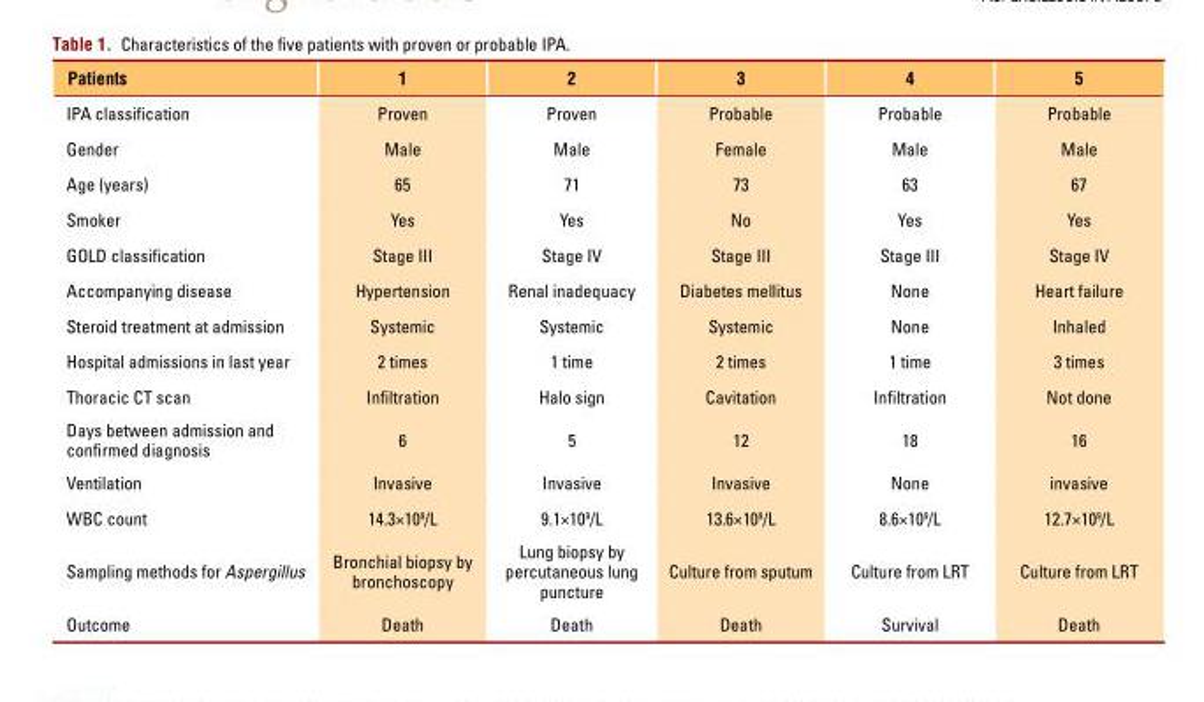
<table><thead><tr><td>Patients</td><td>1</td><td>2</td><td>3</td><td>4</td><td>5</td></tr></thead><tbody><tr><td>IPA classification</td><td>Proven</td><td>Proven</td><td>Probable</td><td>Probable</td><td>Probable</td></tr><tr><td>Gender</td><td>Male</td><td>Male</td><td>Female</td><td>Male</td><td>Male</td></tr><tr><td>Age (years)</td><td>65</td><td>71</td><td>73</td><td>63</td><td>67</td></tr><tr><td>Smoker</td><td>Yes</td><td>Yes</td><td>No</td><td>Yes</td><td>Yes</td></tr><tr><td>GOLD classification</td><td>Stage III</td><td>Stage IV</td><td>Stage III</td><td>Stage III</td><td>Stage IV</td></tr><tr><td>Accompanying disease</td><td>Hypertension</td><td>Renal inadequacy</td><td>Diabetes mellitus</td><td>None</td><td>Heart failure</td></tr><tr><td>Steroid treatment at admission</td><td>Systemic</td><td>Systemic</td><td>Systemic</td><td>None</td><td>Inhaled</td></tr><tr><td>Hospital admissions in last year</td><td>2 times</td><td>1 time</td><td>2 times</td><td>1 time</td><td>3 times</td></tr><tr><td>Thoracic CT scan</td><td>Infiltration</td><td>Halo sign</td><td>Cavitation</td><td>Infiltration</td><td>Not done</td></tr><tr><td>Days between admission and confirmed diagnosis</td><td>6</td><td>5</td><td>12</td><td>18</td><td>16</td></tr><tr><td>Ventilation</td><td>Invasive</td><td>Invasive</td><td>Invasive</td><td>None</td><td>invasive</td></tr><tr><td>WBC count</td><td>14.3×10<sup>9</sup>/L</td><td>9.1×10<sup>9</sup>/L</td><td>13.6×10<sup>9</sup>/L</td><td>8.6×10<sup>9</sup>/L</td><td>12.7×10<sup>9</sup>/L</td></tr><tr><td>Sampling methods for Aspergillus</td><td>Bronchial biopsy by bronchoscopy</td><td>Lung biopsy by percutaneous lung puncture</td><td>Culture from sputum</td><td>Culture from LRT</td><td>Culture from LRT</td></tr><tr><td>Outcome</td><td>Death</td><td>Death</td><td>Death</td><td>Survival</td><td>Death</td></tr></tbody></table>